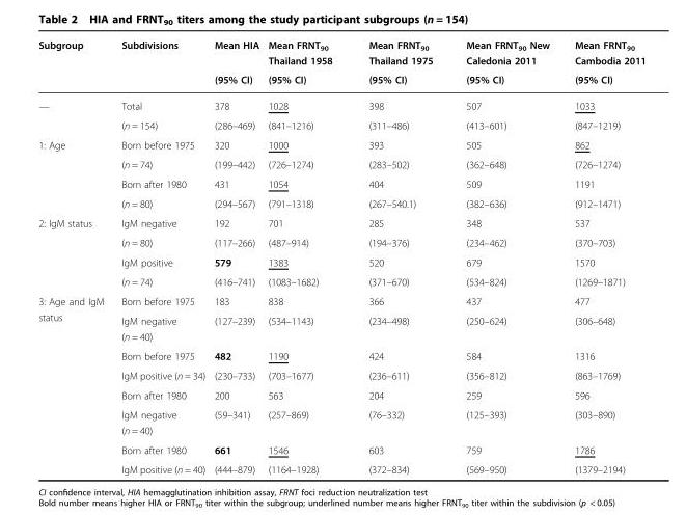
<table><thead><tr><td rowspan="2">Subgroup</td><td rowspan="2">Subdivisions</td><td rowspan="2">Mean HIA (95% CI)</td><td rowspan="2">Mean FRNT<sub>90</sub> Thailand 1958 (95% CI)</td><td rowspan="2">Mean FRNT<sub>90</sub> Thailand 1975 (95% CI)</td><td rowspan="2">Mean FRNT<sub>90</sub> New Caledonia 2011 (95% CI)</td><td rowspan="2">Mean FRNT<sub>90</sub> Cambodia 2011 (95% CI)</td></tr><tr></tr></thead><tbody><tr><td rowspan="2">—</td><td>Total</td><td>378</td><td>1028</td><td>398</td><td>507</td><td>1033</td></tr><tr><td>(n = 154)</td><td>(286–469)</td><td>(841–1216)</td><td>(311–486)</td><td>(413–601)</td><td>(847–1219)</td></tr><tr><td rowspan="4">1: Age</td><td>Born before 1975</td><td>320</td><td>1000</td><td>393</td><td>505</td><td>862</td></tr><tr><td>(n = 74)</td><td>(199–442)</td><td>(726–1274)</td><td>(283–502)</td><td>(362–648)</td><td>(726–1274)</td></tr><tr><td>Born after 1980</td><td>431</td><td>1054</td><td>404</td><td>509</td><td>1191</td></tr><tr><td>(n = 80)</td><td>(294–567)</td><td>(791–1318)</td><td>(267–540.1)</td><td>(382–636)</td><td>(912–1471)</td></tr><tr><td rowspan="4">2: IgM status</td><td>IgM negative</td><td>192</td><td>701</td><td>285</td><td>348</td><td>537</td></tr><tr><td>(n = 80)</td><td>(117–266)</td><td>(487–914)</td><td>(194–376)</td><td>(234–462)</td><td>(370–703)</td></tr><tr><td>IgM positive</td><td>579</td><td>1383</td><td>520</td><td>679</td><td>1570</td></tr><tr><td>(n = 74)</td><td>(416–741)</td><td>(1083–1682)</td><td>(371–670)</td><td>(534–824)</td><td>(1269–1871)</td></tr><tr><td rowspan="8">3: Age and IgM status</td><td>Born before 1975</td><td>183</td><td>838</td><td>366</td><td>437</td><td>477</td></tr><tr><td>IgM negative (n = 40)</td><td>(127–239)</td><td>(534–1143)</td><td>(234–498)</td><td>(250–624)</td><td>(306–648)</td></tr><tr><td>Born before 1975</td><td>482</td><td>1190</td><td>424</td><td>584</td><td>1316</td></tr><tr><td>IgM positive (n = 34)</td><td>(230–733)</td><td>(703–1677)</td><td>(236–611)</td><td>(356–812)</td><td>(863–1769)</td></tr><tr><td>Born after 1980</td><td>200</td><td>563</td><td>204</td><td>259</td><td>596</td></tr><tr><td>IgM negative (n = 40)</td><td>(59–341)</td><td>(257–869)</td><td>(76–332)</td><td>(125–393)</td><td>(303–890)</td></tr><tr><td>Born after 1980</td><td>661</td><td>1546</td><td>603</td><td>759</td><td>1786</td></tr><tr><td>IgM positive (n = 40)</td><td>(444–879)</td><td>(1164–1928)</td><td>(372–834)</td><td>(569–950)</td><td>(1379–2194)</td></tr></tbody></table>